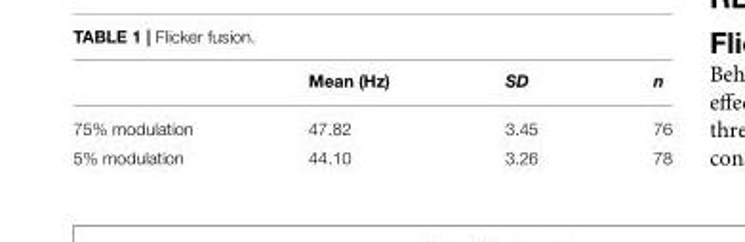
<table><thead><tr><td></td><td>Mean (Hz)</td><td>SD</td><td>n</td></tr></thead><tbody><tr><td>75% modulation</td><td>47.82</td><td>3.45</td><td>76</td></tr><tr><td>5% modulation</td><td>44.10</td><td>3.26</td><td>78</td></tr></tbody></table>